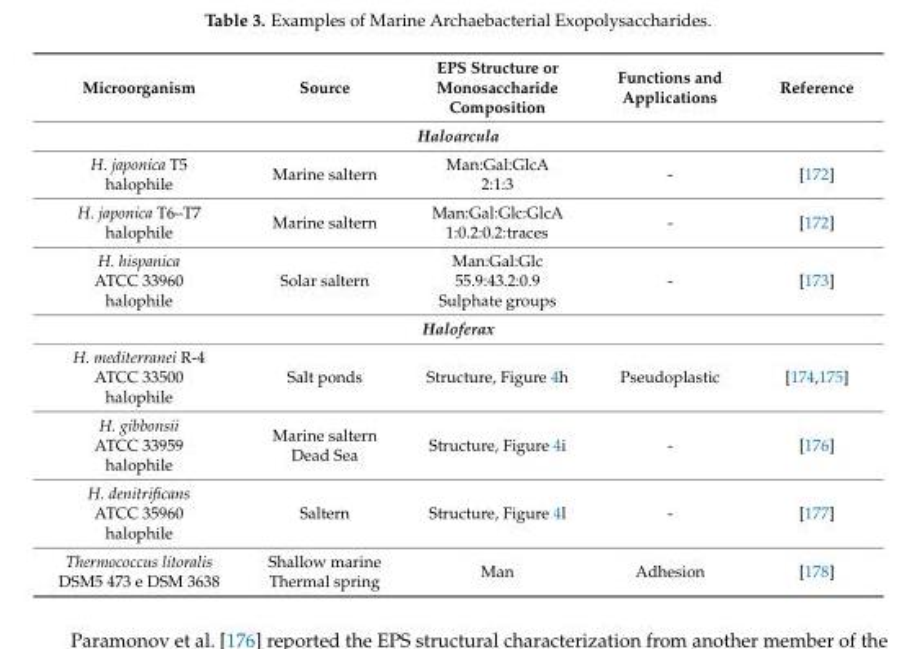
<table><thead><tr><td>Microorganism</td><td>Source</td><td>EPS Structure or Monosaccharide Composition</td><td>Functions and Applications</td><td>Reference</td></tr></thead><tbody><tr><td colspan="5">Haloarcula</td></tr><tr><td>H. japonica T5 halophile</td><td>Marine saltern</td><td>Man:Gal:GlcA 2:1:3</td><td>-</td><td>[172]</td></tr><tr><td>H. japonica T6–T7 halophile</td><td>Marine saltern</td><td>Man:Gal:Glc:GlcA 1:0.2:0.2:traces</td><td>-</td><td>[172]</td></tr><tr><td>H. hispanica ATCC 33960 halophile</td><td>Solar saltern</td><td>Man:Gal:Glc 55.9:43.2:0.9 Sulphate groups</td><td>-</td><td>[173]</td></tr><tr><td colspan="5">Haloferax</td></tr><tr><td>H. mediterranei R-4 ATCC 33500 halophile</td><td>Salt ponds</td><td>Structure, Figure 4h</td><td>Pseudoplastic</td><td>[174,175]</td></tr><tr><td>H. gibbonsii ATCC 33959 halophile</td><td>Marine saltern Dead Sea</td><td>Structure, Figure 4i</td><td>-</td><td>[176]</td></tr><tr><td>H. denitrificans ATCC 35960 halophile</td><td>Saltern</td><td>Structure, Figure 4l</td><td>-</td><td>[177]</td></tr><tr><td>Thermococcus litoralis DSM5 473 e DSM 3638</td><td>Shallow marine Thermal spring</td><td>Man</td><td>Adhesion</td><td>[178]</td></tr></tbody></table>